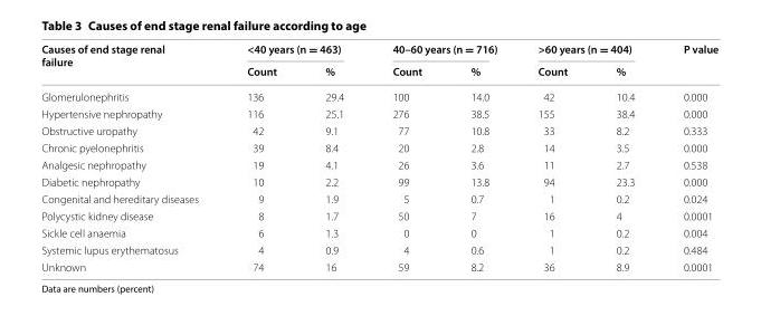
<table><thead><tr><td rowspan="2">Causes of end stage renal failure</td><td colspan="2">&lt;40 years (n = 463)</td><td colspan="2">40–60 years (n = 716)</td><td colspan="2">&gt;60 years (n = 404)</td><td rowspan="2">P value</td></tr><tr><td>Count</td><td>%</td><td>Count</td><td>%</td><td>Count</td><td>%</td></tr></thead><tbody><tr><td>Glomerulonephritis</td><td>136</td><td>29.4</td><td>100</td><td>14.0</td><td>42</td><td>10.4</td><td>0.000</td></tr><tr><td>Hypertensive nephropathy</td><td>116</td><td>25.1</td><td>276</td><td>38.5</td><td>155</td><td>38.4</td><td>0.000</td></tr><tr><td>Obstructive uropathy</td><td>42</td><td>9.1</td><td>77</td><td>10.8</td><td>33</td><td>8.2</td><td>0.333</td></tr><tr><td>Chronic pyelonephritis</td><td>39</td><td>8.4</td><td>20</td><td>2.8</td><td>14</td><td>3.5</td><td>0.000</td></tr><tr><td>Analgesic nephropathy</td><td>19</td><td>4.1</td><td>26</td><td>3.6</td><td>11</td><td>2.7</td><td>0.538</td></tr><tr><td>Diabetic nephropathy</td><td>10</td><td>2.2</td><td>99</td><td>13.8</td><td>94</td><td>23.3</td><td>0.000</td></tr><tr><td>Congenital and hereditary diseases</td><td>9</td><td>1.9</td><td>5</td><td>0.7</td><td>1</td><td>0.2</td><td>0.024</td></tr><tr><td>Polycystic kidney disease</td><td>8</td><td>1.7</td><td>50</td><td>7</td><td>16</td><td>4</td><td>0.0001</td></tr><tr><td>Sickle cell anaemia</td><td>6</td><td>1.3</td><td>0</td><td>0</td><td>1</td><td>0.2</td><td>0.004</td></tr><tr><td>Systemic lupus erythematosus</td><td>4</td><td>0.9</td><td>4</td><td>0.6</td><td>1</td><td>0.2</td><td>0.484</td></tr><tr><td>Unknown</td><td>74</td><td>16</td><td>59</td><td>8.2</td><td>36</td><td>8.9</td><td>0.0001</td></tr></tbody></table>